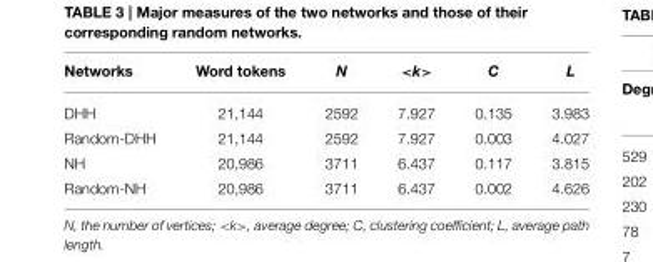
<table><thead><tr><td>Networks</td><td>Word tokens</td><td>N</td><td>&lt;k&gt;</td><td>C</td><td>L</td></tr></thead><tbody><tr><td>DHH</td><td>21,144</td><td>2592</td><td>7.927</td><td>0.135</td><td>3.983</td></tr><tr><td>Random-DHH</td><td>21,144</td><td>2592</td><td>7.927</td><td>0.003</td><td>4.027</td></tr><tr><td>NH</td><td>20,986</td><td>3711</td><td>6.437</td><td>0.117</td><td>3.815</td></tr><tr><td>Random-NH</td><td>20,986</td><td>3711</td><td>6.437</td><td>0.002</td><td>4.626</td></tr></tbody></table>